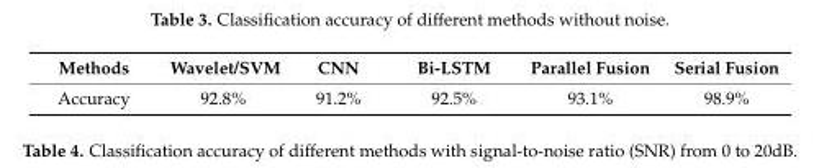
<table><thead><tr><td>Methods</td><td>Wavelet/SVM</td><td>CNN</td><td>Bi-LSTM</td><td>Parallel Fusion</td><td>Serial Fusion</td></tr></thead><tbody><tr><td>Accuracy</td><td>92.8%</td><td>91.2%</td><td>92.5%</td><td>93.1%</td><td>98.9%</td></tr></tbody></table>